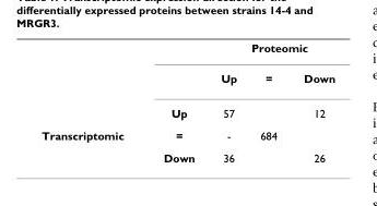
<table><thead><tr><td rowspan="2"></td><td rowspan="2"></td><td colspan="3">Proteomic</td></tr><tr><td>Up</td><td>=</td><td>Down</td></tr></thead><tbody><tr><td></td><td>Up</td><td>57</td><td></td><td>12</td></tr><tr><td rowspan="2">Transcriptomic</td><td>=</td><td>-</td><td>684</td><td></td></tr><tr><td>Down</td><td>36</td><td></td><td>26</td></tr></tbody></table>